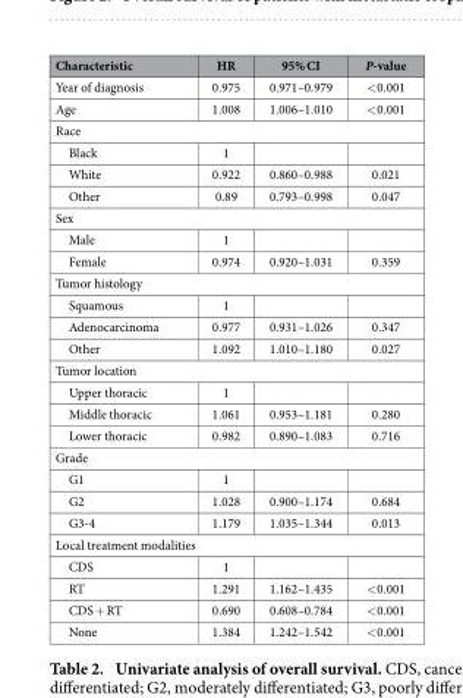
<table><thead><tr><td>Characteristic</td><td>HR</td><td>95% CI</td><td>P-value</td></tr></thead><tbody><tr><td>Year of diagnosis</td><td>0.975</td><td>0.971–0.979</td><td>&lt; 0.001</td></tr><tr><td>Age</td><td>1.008</td><td>1.006–1.010</td><td>&lt; 0.001</td></tr><tr><td colspan="4">Race</td></tr><tr><td>Black</td><td>1</td><td></td><td></td></tr><tr><td>White</td><td>0.922</td><td>0.860–0.988</td><td>0.021</td></tr><tr><td>Other</td><td>0.89</td><td>0.793–0.998</td><td>0.047</td></tr><tr><td colspan="4">Sex</td></tr><tr><td>Male</td><td>1</td><td></td><td></td></tr><tr><td>Female</td><td>0.974</td><td>0.920–1.031</td><td>0.359</td></tr><tr><td colspan="4">Tumor histology</td></tr><tr><td>Squamous</td><td>1</td><td></td><td></td></tr><tr><td>Adenocarcinoma</td><td>0.977</td><td>0.931–1.026</td><td>0.347</td></tr><tr><td>Other</td><td>1.092</td><td>1.010–1.180</td><td>0.027</td></tr><tr><td colspan="4">Tumor location</td></tr><tr><td>Upper thoracic</td><td>1</td><td></td><td></td></tr><tr><td>Middle thoracic</td><td>1.061</td><td>0.953–1.181</td><td>0.280</td></tr><tr><td>Lower thoracic</td><td>0.982</td><td>0.890–1.083</td><td>0.716</td></tr><tr><td colspan="4">Grade</td></tr><tr><td>G1</td><td>1</td><td></td><td></td></tr><tr><td>G2</td><td>1.028</td><td>0.900–1.174</td><td>0.684</td></tr><tr><td>G3-4</td><td>1.179</td><td>1.035–1.344</td><td>0.013</td></tr><tr><td colspan="4">Local treatment modalities</td></tr><tr><td>CDS</td><td>1</td><td></td><td></td></tr><tr><td>RT</td><td>1.291</td><td>1.162–1.435</td><td>&lt; 0.001</td></tr><tr><td>CDS + RT</td><td>0.690</td><td>0.608–0.784</td><td>&lt; 0.001</td></tr><tr><td>None</td><td>1.384</td><td>1.242–1.542</td><td>&lt; 0.001</td></tr></tbody></table>